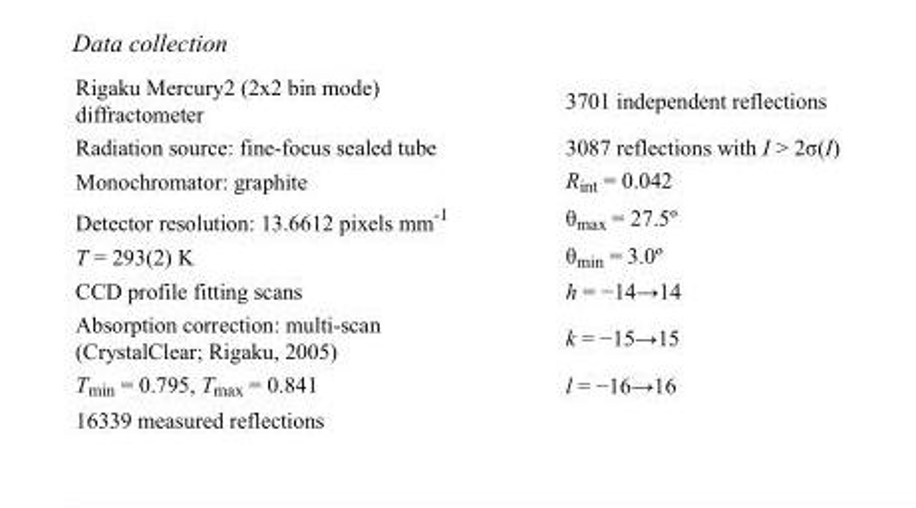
<table><tbody><tr><td>Rigaku Mercury2 (2x2 bin mode) diffractometer</td><td>3701 independent reflections</td></tr><tr><td>Radiation source: fine-focus sealed tube</td><td>3087 reflections with I &gt; 2σ(I)</td></tr><tr><td>Monochromator: graphite</td><td>R<sub>int</sub> = 0.042</td></tr><tr><td>Detector resolution: 13.6612 pixels mm<sup>-1</sup></td><td>θ<sub>max</sub> = 27.5º</td></tr><tr><td>T = 293(2) K</td><td>θ<sub>min</sub> = 3.0º</td></tr><tr><td>CCD profile fitting scans</td><td>h = −14→14</td></tr><tr><td>Absorption correction: multi-scan (CrystalClear; Rigaku, 2005)</td><td>k = −15→15</td></tr><tr><td>T<sub>min</sub> = 0.795, T<sub>max</sub> = 0.841</td><td>l = −16→16</td></tr><tr><td>16339 measured reflections</td><td></td></tr></tbody></table>